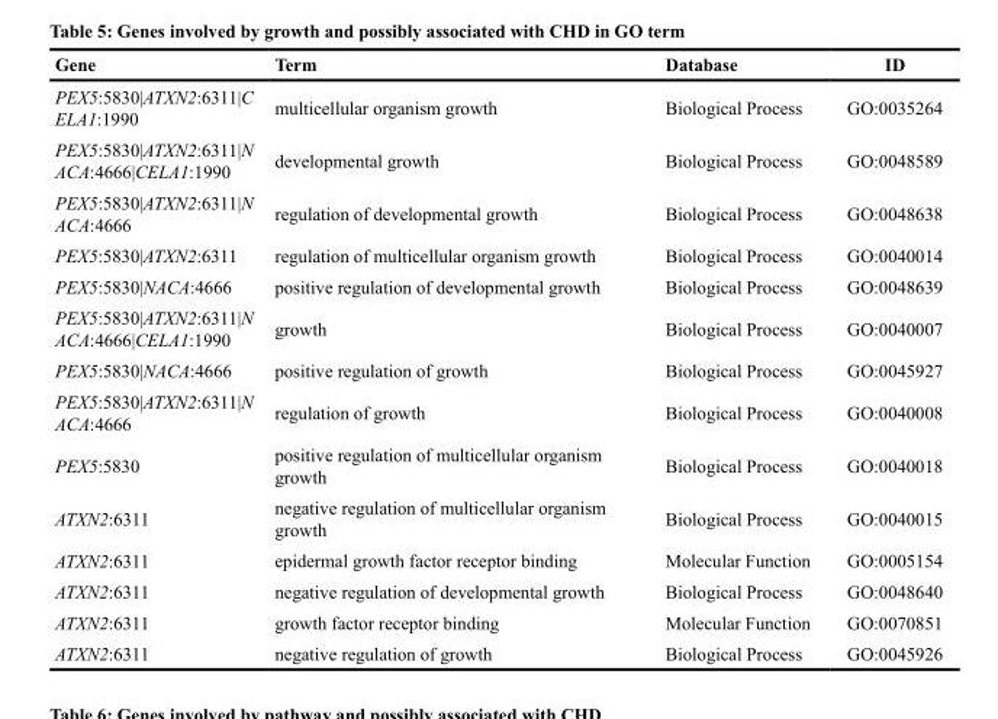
<table><thead><tr><td>Gene</td><td>Term</td><td>Database</td><td>ID</td></tr></thead><tbody><tr><td>PEX5:5830|ATXN2:6311|C ELA1:1990</td><td>multicellular organism growth</td><td>Biological Process</td><td>GO:0035264</td></tr><tr><td>PEX5:5830|ATXN2:6311|N ACA:4666|CELA1:1990</td><td>developmental growth</td><td>Biological Process</td><td>GO:0048589</td></tr><tr><td>PEX5:5830|ATXN2:6311|N ACA:4666</td><td>regulation of developmental growth</td><td>Biological Process</td><td>GO:0048638</td></tr><tr><td>PEX5:5830|ATXN2:6311</td><td>regulation of multicellular organism growth</td><td>Biological Process</td><td>GO:0040014</td></tr><tr><td>PEX5:5830|NACA:4666</td><td>positive regulation of developmental growth</td><td>Biological Process</td><td>GO:0048639</td></tr><tr><td>PEX5:5830|ATXN2:6311|N ACA:4666|CELA1:1990</td><td>growth</td><td>Biological Process</td><td>GO:0040007</td></tr><tr><td>PEX5:5830|NACA:4666</td><td>positive regulation of growth</td><td>Biological Process</td><td>GO:0045927</td></tr><tr><td>PEX5:5830|ATXN2:6311|N ACA:4666</td><td>regulation of growth</td><td>Biological Process</td><td>GO:0040008</td></tr><tr><td>PEX5:5830</td><td>positive regulation of multicellular organism growth</td><td>Biological Process</td><td>GO:0040018</td></tr><tr><td>ATXN2:6311</td><td>negative regulation of multicellular organism growth</td><td>Biological Process</td><td>GO:0040015</td></tr><tr><td>ATXN2:6311</td><td>epidermal growth factor receptor binding</td><td>Molecular Function</td><td>GO:0005154</td></tr><tr><td>ATXN2:6311</td><td>negative regulation of developmental growth</td><td>Biological Process</td><td>GO:0048640</td></tr><tr><td>ATXN2:6311</td><td>growth factor receptor binding</td><td>Molecular Function</td><td>GO:0070851</td></tr><tr><td>ATXN2:6311</td><td>negative regulation of growth</td><td>Biological Process</td><td>GO:0045926</td></tr></tbody></table>